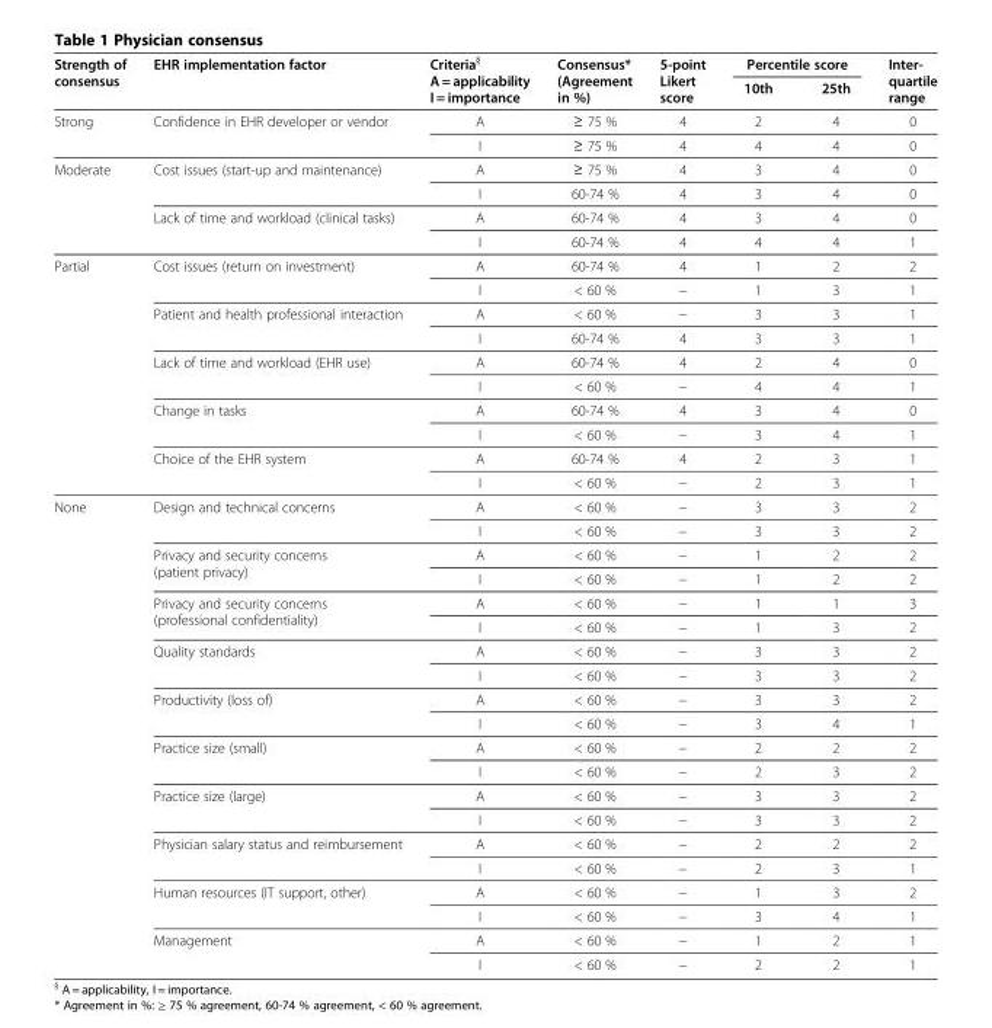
<table><thead><tr><td rowspan="2">Strength of consensus</td><td rowspan="2">EHR implementation factor</td><td rowspan="2">Criteria<sup>§</sup> A = applicability I = importance</td><td rowspan="2">Consensus* (Agreement in %)</td><td rowspan="2">5-point Likert score</td><td colspan="2">Percentile score</td><td rowspan="2">Inter- quartile range</td></tr><tr><td>10th</td><td>25th</td></tr></thead><tbody><tr><td rowspan="2">Strong</td><td rowspan="2">Confidence in EHR developer or vendor</td><td>A</td><td>≥ 75 %</td><td>4</td><td>2</td><td>4</td><td>0</td></tr><tr><td>I</td><td>≥ 75 %</td><td>4</td><td>4</td><td>4</td><td>0</td></tr><tr><td rowspan="4">Moderate</td><td rowspan="2">Cost issues (start-up and maintenance)</td><td>A</td><td>≥ 75 %</td><td>4</td><td>3</td><td>4</td><td>0</td></tr><tr><td>I</td><td>60-74 %</td><td>4</td><td>3</td><td>4</td><td>0</td></tr><tr><td rowspan="2">Lack of time and workload (clinical tasks)</td><td>A</td><td>60-74 %</td><td>4</td><td>3</td><td>4</td><td>0</td></tr><tr><td>I</td><td>60-74 %</td><td>4</td><td>4</td><td>4</td><td>1</td></tr><tr><td rowspan="10">Partial</td><td rowspan="2">Cost issues (return on investment)</td><td>A</td><td>60-74 %</td><td>4</td><td>1</td><td>2</td><td>2</td></tr><tr><td>I</td><td>&lt; 60 %</td><td>−</td><td>1</td><td>3</td><td>1</td></tr><tr><td rowspan="2">Patient and health professional interaction</td><td>A</td><td>&lt; 60 %</td><td>−</td><td>3</td><td>3</td><td>1</td></tr><tr><td>I</td><td>60-74 %</td><td>4</td><td>3</td><td>3</td><td>1</td></tr><tr><td rowspan="2">Lack of time and workload (EHR use)</td><td>A</td><td>60-74 %</td><td>4</td><td>2</td><td>4</td><td>0</td></tr><tr><td>I</td><td>&lt; 60 %</td><td>−</td><td>4</td><td>4</td><td>1</td></tr><tr><td rowspan="2">Change in tasks</td><td>A</td><td>60-74 %</td><td>4</td><td>3</td><td>4</td><td>0</td></tr><tr><td>I</td><td>&lt; 60 %</td><td>−</td><td>3</td><td>4</td><td>1</td></tr><tr><td rowspan="2">Choice of the EHR system</td><td>A</td><td>60-74 %</td><td>4</td><td>2</td><td>3</td><td>1</td></tr><tr><td>I</td><td>&lt; 60 %</td><td>−</td><td>2</td><td>3</td><td>1</td></tr><tr><td rowspan="20">None</td><td rowspan="2">Design and technical concerns</td><td>A</td><td>&lt; 60 %</td><td>−</td><td>3</td><td>3</td><td>2</td></tr><tr><td>I</td><td>&lt; 60 %</td><td>−</td><td>3</td><td>3</td><td>2</td></tr><tr><td rowspan="2">Privacy and security concerns (patient privacy)</td><td>A</td><td>&lt; 60 %</td><td>−</td><td>1</td><td>2</td><td>2</td></tr><tr><td>I</td><td>&lt; 60 %</td><td>−</td><td>1</td><td>2</td><td>2</td></tr><tr><td rowspan="2">Privacy and security concerns (professional confidentiality)</td><td>A</td><td>&lt; 60 %</td><td>−</td><td>1</td><td>1</td><td>3</td></tr><tr><td>I</td><td>&lt; 60 %</td><td>−</td><td>1</td><td>3</td><td>2</td></tr><tr><td rowspan="2">Quality standards</td><td>A</td><td>&lt; 60 %</td><td>−</td><td>3</td><td>3</td><td>2</td></tr><tr><td>I</td><td>&lt; 60 %</td><td>−</td><td>3</td><td>3</td><td>2</td></tr><tr><td rowspan="2">Productivity (loss of)</td><td>A</td><td>&lt; 60 %</td><td>−</td><td>3</td><td>3</td><td>2</td></tr><tr><td>I</td><td>&lt; 60 %</td><td>−</td><td>3</td><td>4</td><td>1</td></tr><tr><td rowspan="2">Practice size (small)</td><td>A</td><td>&lt; 60 %</td><td>−</td><td>2</td><td>2</td><td>2</td></tr><tr><td>I</td><td>&lt; 60 %</td><td>−</td><td>2</td><td>3</td><td>2</td></tr><tr><td rowspan="2">Practice size (large)</td><td>A</td><td>&lt; 60 %</td><td>−</td><td>3</td><td>3</td><td>2</td></tr><tr><td>I</td><td>&lt; 60 %</td><td>−</td><td>3</td><td>3</td><td>2</td></tr><tr><td rowspan="2">Physician salary status and reimbursement</td><td>A</td><td>&lt; 60 %</td><td>−</td><td>2</td><td>2</td><td>2</td></tr><tr><td>I</td><td>&lt; 60 %</td><td>−</td><td>2</td><td>3</td><td>1</td></tr><tr><td rowspan="2">Human resources (IT support, other)</td><td>A</td><td>&lt; 60 %</td><td>−</td><td>1</td><td>3</td><td>2</td></tr><tr><td>I</td><td>&lt; 60 %</td><td>−</td><td>3</td><td>4</td><td>1</td></tr><tr><td rowspan="2">Management</td><td>A</td><td>&lt; 60 %</td><td>−</td><td>1</td><td>2</td><td>1</td></tr><tr><td>I</td><td>&lt; 60 %</td><td>−</td><td>2</td><td>2</td><td>1</td></tr></tbody></table>